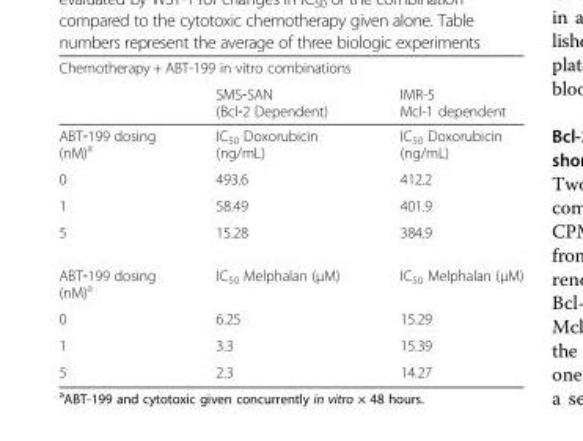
<table><tbody><tr><td colspan="3">Chemotherapy + ABT-199 in vitro combinations</td></tr><tr><td></td><td>SMS‐SAN (Bcl‐2 Dependent)</td><td>IMR-5 Mcl-1 dependent</td></tr><tr><td>ABT‐199 dosing (nM)<sup>a</sup></td><td>IC<sub>50</sub> Doxorubicin (ng/mL)</td><td>IC<sub>50</sub> Doxorubicin (ng/mL)</td></tr><tr><td>0</td><td>493.6</td><td>412.2</td></tr><tr><td>1</td><td>58.49</td><td>401.9</td></tr><tr><td>5</td><td>15.28</td><td>384.9</td></tr><tr><td>ABT‐199 dosing (nM)<sup>a</sup></td><td>IC<sub>50</sub> Melphalan (μM)</td><td>IC<sub>50</sub> Melphalan (μM)</td></tr><tr><td>0</td><td>6.25</td><td>15.29</td></tr><tr><td>1</td><td>3.3</td><td>15.39</td></tr><tr><td>5</td><td>2.3</td><td>14.27</td></tr></tbody></table>